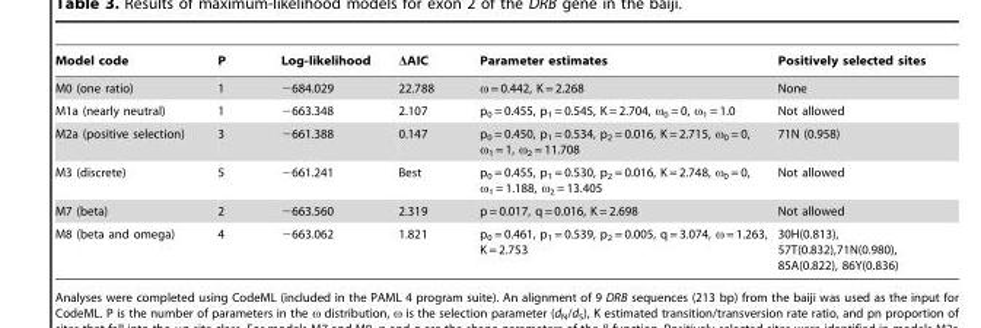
<table><thead><tr><td>Model code</td><td>P</td><td>Log-likelihood</td><td>ΔAIC</td><td>Parameter estimates</td><td>Positively selected sites</td></tr></thead><tbody><tr><td>M0 (one ratio)</td><td>1</td><td>−684.029</td><td>22.788</td><td>ω = 0.442, K = 2.268</td><td>None</td></tr><tr><td>M1a (nearly neutral)</td><td>1</td><td>−663.348</td><td>2.107</td><td>p<sub>0</sub> = 0.455, p<sub>1</sub> = 0.545, K = 2.704, ω<sub>0</sub> = 0, ω<sub>1</sub> = 1.0</td><td>Not allowed</td></tr><tr><td>M2a (positive selection)</td><td>3</td><td>−661.388</td><td>0.147</td><td>p<sub>0</sub> = 0.450, p<sub>1</sub> = 0.534, p<sub>2</sub> = 0.016, K = 2.715, ω<sub>0</sub> = 0, ω<sub>1</sub> = 1, ω<sub>2</sub> = 11.708</td><td>71N (0.958)</td></tr><tr><td>M3 (discrete)</td><td>5</td><td>−661.241</td><td>Best</td><td>p<sub>0</sub> = 0.455, p<sub>1</sub> = 0.530, p<sub>2</sub> = 0.016, K = 2.748, ω<sub>0</sub> = 0, ω<sub>1</sub> = 1.188, ω<sub>2</sub> = 13.405</td><td>Not allowed</td></tr><tr><td>M7 (beta)</td><td>2</td><td>−663.560</td><td>2.319</td><td>p = 0.017, q = 0.016, K = 2.698</td><td>Not allowed</td></tr><tr><td>M8 (beta and omega)</td><td>4</td><td>−663.062</td><td>1.821</td><td>p<sub>0</sub> = 0.461, p<sub>1</sub> = 0.539, p<sub>2</sub> = 0.005, q = 3.074, ω = 1.263, K = 2.753</td><td>30H(0.813), 57T(0.832),71N(0.980), 85A(0.822), 86Y(0.836)</td></tr></tbody></table>